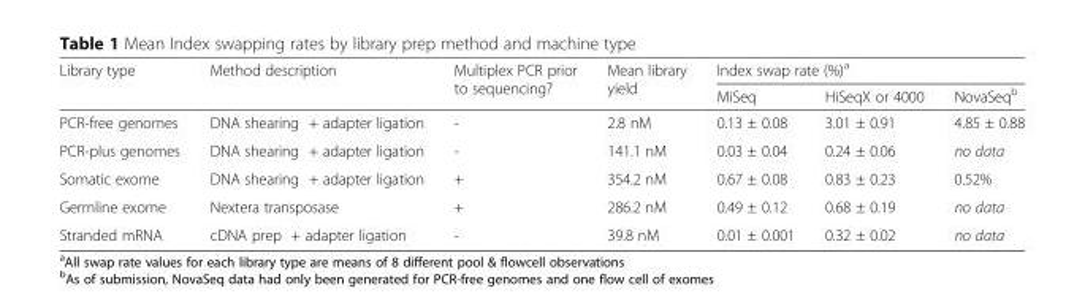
<table><thead><tr><td rowspan="2">Library type</td><td rowspan="2">Method description</td><td rowspan="2">Multiplex PCR prior to sequencing?</td><td rowspan="2">Mean library yield</td><td colspan="3">Index swap rate (%)<sup>a</sup></td></tr><tr><td>MiSeq</td><td>HiSeqX or 4000</td><td>NovaSeq<sup>b</sup></td></tr></thead><tbody><tr><td>PCR-free genomes</td><td>DNA shearing + adapter ligation</td><td>-</td><td>2.8 nM</td><td>0.13 ± 0.08</td><td>3.01 ± 0.91</td><td>4.85 ± 0.88</td></tr><tr><td>PCR-plus genomes</td><td>DNA shearing + adapter ligation</td><td>-</td><td>141.1 nM</td><td>0.03 ± 0.04</td><td>0.24 ± 0.06</td><td>no data</td></tr><tr><td>Somatic exome</td><td>DNA shearing + adapter ligation</td><td>+</td><td>354.2 nM</td><td>0.67 ± 0.08</td><td>0.83 ± 0.23</td><td>0.52%</td></tr><tr><td>Germline exome</td><td>Nextera transposase</td><td>+</td><td>286.2 nM</td><td>0.49 ± 0.12</td><td>0.68 ± 0.19</td><td>no data</td></tr><tr><td>Stranded mRNA</td><td>cDNA prep + adapter ligation</td><td>-</td><td>39.8 nM</td><td>0.01 ± 0.001</td><td>0.32 ± 0.02</td><td>no data</td></tr></tbody></table>